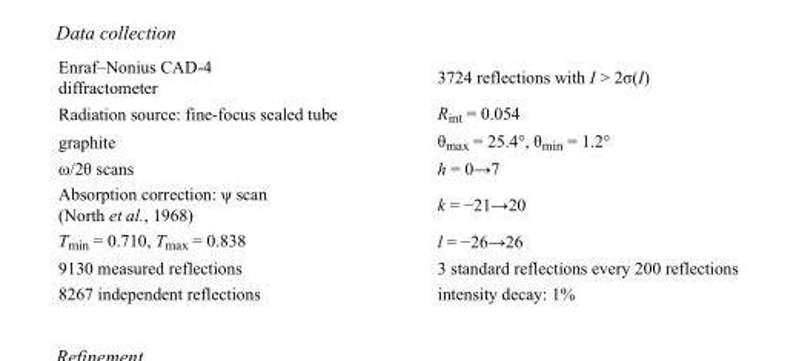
<table><tbody><tr><td>Enraf–Nonius CAD-4 diffractometer</td><td>3724 reflections with I &gt; 2σ(I)</td></tr><tr><td>Radiation source: fine-focus sealed tube</td><td>R<sub>int</sub> = 0.054</td></tr><tr><td>graphite</td><td>θ<sub>max</sub> = 25.4°, θ<sub>min</sub> = 1.2°</td></tr><tr><td>ω/2θ scans</td><td>h = 0→7</td></tr><tr><td>Absorption correction: ψ scan (North et al., 1968)</td><td>k = −21→20</td></tr><tr><td>T<sub>min</sub> = 0.710, T<sub>max</sub> = 0.838</td><td>l = −26→26</td></tr><tr><td>9130 measured reflections</td><td>3 standard reflections every 200 reflections</td></tr><tr><td>8267 independent reflections</td><td>intensity decay: 1%</td></tr></tbody></table>